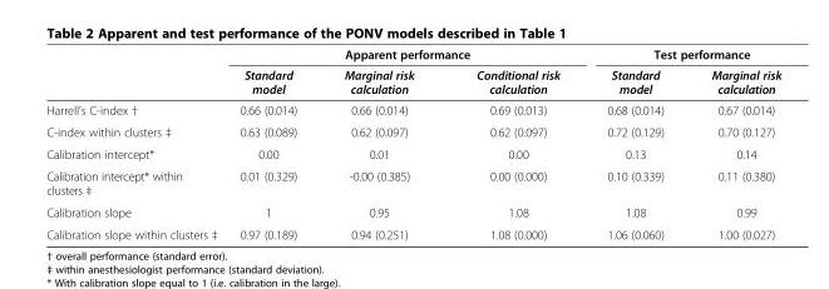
<table><thead><tr><td rowspan="2"></td><td colspan="3">Apparent performance</td><td colspan="2">Test performance</td></tr><tr><td>Standard model</td><td>Marginal risk calculation</td><td>Conditional risk calculation</td><td>Standard model</td><td>Marginal risk calculation</td></tr></thead><tbody><tr><td>Harrell’s C-index †</td><td>0.66 (0.014)</td><td>0.66 (0.014)</td><td>0.69 (0.013)</td><td>0.68 (0.014)</td><td>0.67 (0.014)</td></tr><tr><td>C-index within clusters ‡</td><td>0.63 (0.089)</td><td>0.62 (0.097)</td><td>0.62 (0.097)</td><td>0.72 (0.129)</td><td>0.70 (0.127)</td></tr><tr><td>Calibration intercept*</td><td>0.00</td><td>0.01</td><td>0.00</td><td>0.13</td><td>0.14</td></tr><tr><td>Calibration intercept* within clusters ‡</td><td>0.01 (0.329)</td><td>-0.00 (0.385)</td><td>0.00 (0.000)</td><td>0.10 (0.339)</td><td>0.11 (0.380)</td></tr><tr><td>Calibration slope</td><td>1</td><td>0.95</td><td>1.08</td><td>1.08</td><td>0.99</td></tr><tr><td>Calibration slope within clusters ‡</td><td>0.97 (0.189)</td><td>0.94 (0.251)</td><td>1.08 (0.000)</td><td>1.06 (0.060)</td><td>1.00 (0.027)</td></tr></tbody></table>